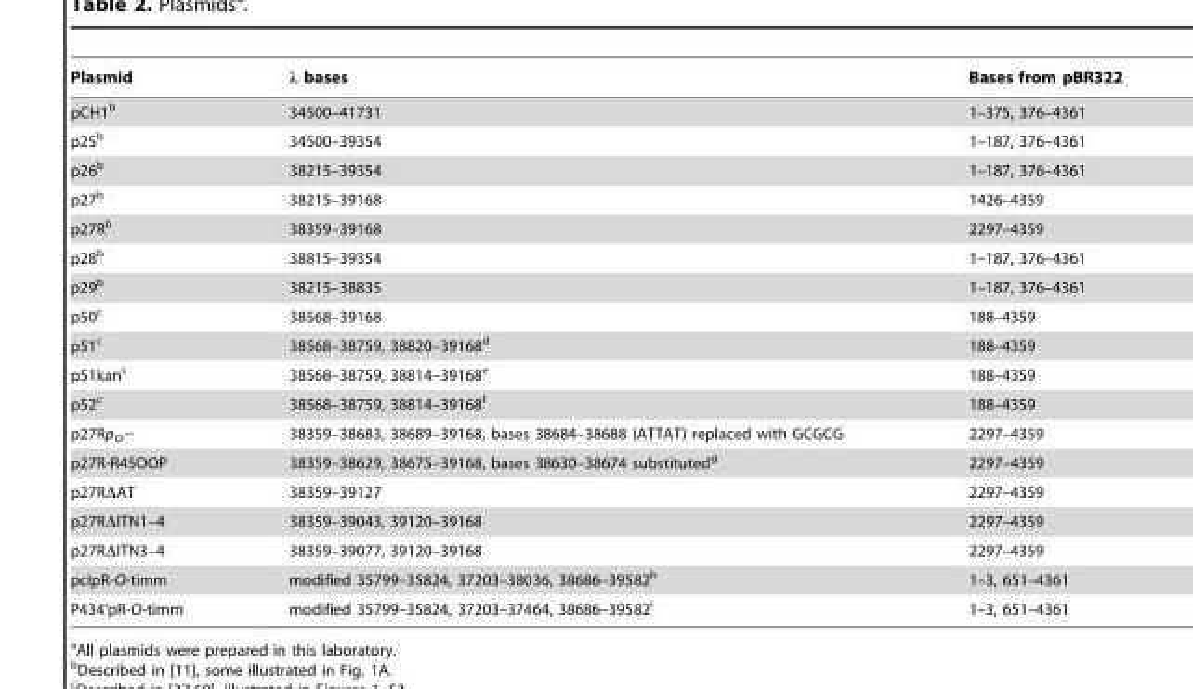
<table><thead><tr><td>Plasmid</td><td>λ bases</td><td>Bases from pBR322</td></tr></thead><tbody><tr><td>pCH1<sup>b</sup></td><td>34500–41731</td><td>1–375, 376–4361</td></tr><tr><td>p25<sup>b</sup></td><td>34500–39354</td><td>1–187, 376–4361</td></tr><tr><td>p26<sup>b</sup></td><td>38215–39354</td><td>1–187, 376–4361</td></tr><tr><td>p27<sup>b</sup></td><td>38215–39168</td><td>1426–4359</td></tr><tr><td>p27R<sup>b</sup></td><td>38359–39168</td><td>2297–4359</td></tr><tr><td>p28<sup>b</sup></td><td>38815–39354</td><td>1–187, 376–4361</td></tr><tr><td>p29<sup>b</sup></td><td>38215–38835</td><td>1–187, 376–4361</td></tr><tr><td>p50<sup>c</sup></td><td>38568–39168</td><td>188–4359</td></tr><tr><td>p51<sup>c</sup></td><td>38568–38759, 38820–39168<sup>d</sup></td><td>188–4359</td></tr><tr><td>p51kan<sup>c</sup></td><td>38568–38759, 38814–39168<sup>e</sup></td><td>188–4359</td></tr><tr><td>p52<sup>c</sup></td><td>38568–38759, 38814–39168<sup>f</sup></td><td>188–4359</td></tr><tr><td>p27Rp<sub>O</sub>−</td><td>38359–38683, 38689–39168, bases 38684–38688 (ATTAT) replaced with GCGCG</td><td>2297–4359</td></tr><tr><td>p27R-R45OOP</td><td>38359–38629, 38675–39168, bases 38630–38674 substituted<sup>g</sup></td><td>2297–4359</td></tr><tr><td>p27RΔAT</td><td>38359–39127</td><td>2297–4359</td></tr><tr><td>p27RΔITN1–4</td><td>38359–39043, 39120–39168</td><td>2297–4359</td></tr><tr><td>p27RΔITN3–4</td><td>38359–39077, 39120–39168</td><td>2297–4359</td></tr><tr><td>pcIpR-O-timm</td><td>modified 35799–35824, 37203–38036, 38686–39582<sup>h</sup></td><td>1–3, 651–4361</td></tr><tr><td>P434’pR-O-timm</td><td>modified 35799–35824, 37203–37464, 38686–39582<sup>i</sup></td><td>1–3, 651–4361</td></tr></tbody></table>